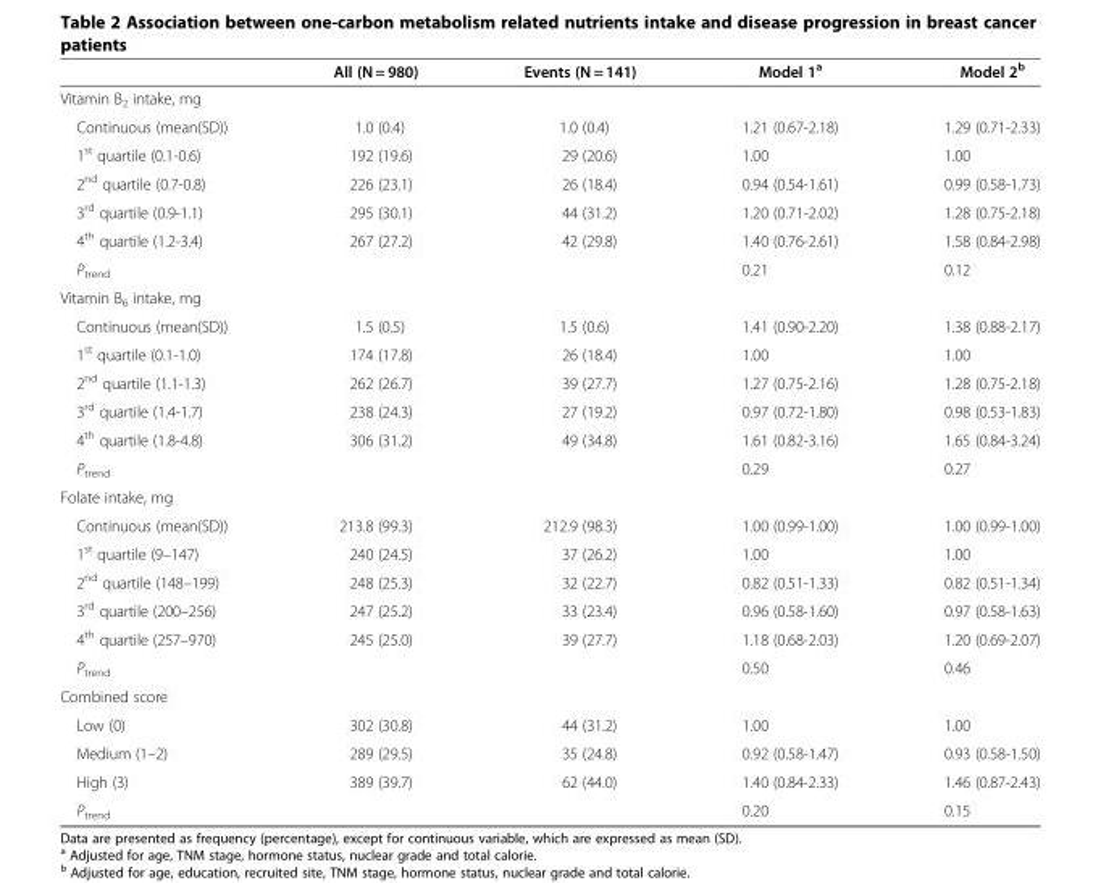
<table><thead><tr><td></td><td>All (N = 980)</td><td>Events (N = 141)</td><td>Model 1<sup>a</sup></td><td>Model 2<sup>b</sup></td></tr></thead><tbody><tr><td colspan="5">Vitamin B<sub>2</sub> intake, mg</td></tr><tr><td>Continuous (mean(SD))</td><td>1.0 (0.4)</td><td>1.0 (0.4)</td><td>1.21 (0.67-2.18)</td><td>1.29 (0.71-2.33)</td></tr><tr><td>1<sup>st</sup> quartile (0.1-0.6)</td><td>192 (19.6)</td><td>29 (20.6)</td><td>1.00</td><td>1.00</td></tr><tr><td>2<sup>nd</sup> quartile (0.7-0.8)</td><td>226 (23.1)</td><td>26 (18.4)</td><td>0.94 (0.54-1.61)</td><td>0.99 (0.58-1.73)</td></tr><tr><td>3<sup>rd</sup> quartile (0.9-1.1)</td><td>295 (30.1)</td><td>44 (31.2)</td><td>1.20 (0.71-2.02)</td><td>1.28 (0.75-2.18)</td></tr><tr><td>4<sup>th</sup> quartile (1.2-3.4)</td><td>267 (27.2)</td><td>42 (29.8)</td><td>1.40 (0.76-2.61)</td><td>1.58 (0.84-2.98)</td></tr><tr><td>P<sub>trend</sub></td><td></td><td></td><td>0.21</td><td>0.12</td></tr><tr><td colspan="5">Vitamin B<sub>6</sub> intake, mg</td></tr><tr><td>Continuous (mean(SD))</td><td>1.5 (0.5)</td><td>1.5 (0.6)</td><td>1.41 (0.90-2.20)</td><td>1.38 (0.88-2.17)</td></tr><tr><td>1<sup>st</sup> quartile (0.1-1.0)</td><td>174 (17.8)</td><td>26 (18.4)</td><td>1.00</td><td>1.00</td></tr><tr><td>2<sup>nd</sup> quartile (1.1-1.3)</td><td>262 (26.7)</td><td>39 (27.7)</td><td>1.27 (0.75-2.16)</td><td>1.28 (0.75-2.18)</td></tr><tr><td>3<sup>rd</sup> quartile (1.4-1.7)</td><td>238 (24.3)</td><td>27 (19.2)</td><td>0.97 (0.72-1.80)</td><td>0.98 (0.53-1.83)</td></tr><tr><td>4<sup>th</sup> quartile (1.8-4.8)</td><td>306 (31.2)</td><td>49 (34.8)</td><td>1.61 (0.82-3.16)</td><td>1.65 (0.84-3.24)</td></tr><tr><td>P<sub>trend</sub></td><td></td><td></td><td>0.29</td><td>0.27</td></tr><tr><td colspan="5">Folate intake, mg</td></tr><tr><td>Continuous (mean(SD))</td><td>213.8 (99.3)</td><td>212.9 (98.3)</td><td>1.00 (0.99-1.00)</td><td>1.00 (0.99-1.00)</td></tr><tr><td>1<sup>st</sup> quartile (9–147)</td><td>240 (24.5)</td><td>37 (26.2)</td><td>1.00</td><td>1.00</td></tr><tr><td>2<sup>nd</sup> quartile (148–199)</td><td>248 (25.3)</td><td>32 (22.7)</td><td>0.82 (0.51-1.33)</td><td>0.82 (0.51-1.34)</td></tr><tr><td>3<sup>rd</sup> quartile (200–256)</td><td>247 (25.2)</td><td>33 (23.4)</td><td>0.96 (0.58-1.60)</td><td>0.97 (0.58-1.63)</td></tr><tr><td>4<sup>th</sup> quartile (257–970)</td><td>245 (25.0)</td><td>39 (27.7)</td><td>1.18 (0.68-2.03)</td><td>1.20 (0.69-2.07)</td></tr><tr><td>P<sub>trend</sub></td><td></td><td></td><td>0.50</td><td>0.46</td></tr><tr><td colspan="5">Combined score</td></tr><tr><td>Low (0)</td><td>302 (30.8)</td><td>44 (31.2)</td><td>1.00</td><td>1.00</td></tr><tr><td>Medium (1–2)</td><td>289 (29.5)</td><td>35 (24.8)</td><td>0.92 (0.58-1.47)</td><td>0.93 (0.58-1.50)</td></tr><tr><td>High (3)</td><td>389 (39.7)</td><td>62 (44.0)</td><td>1.40 (0.84-2.33)</td><td>1.46 (0.87-2.43)</td></tr><tr><td>P<sub>trend</sub></td><td></td><td></td><td>0.20</td><td>0.15</td></tr></tbody></table>